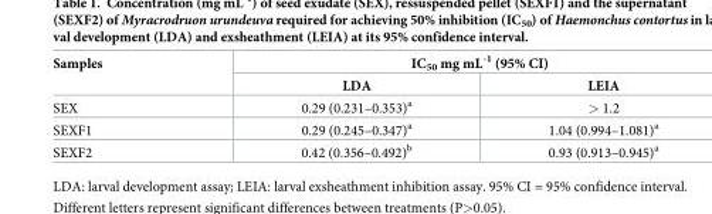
<table><thead><tr><td rowspan="2">Samples</td><td colspan="2">IC<sub>50</sub> mg mL<sup>-1</sup> (95% CI)</td></tr><tr><td>LDA</td><td>LEIA</td></tr></thead><tbody><tr><td>SEX</td><td>0.29 (0.231–0.353)<sup>a</sup></td><td>&gt; 1.2</td></tr><tr><td>SEXF1</td><td>0.29 (0.245–0.347)<sup>a</sup></td><td>1.04 (0.994–1.081)<sup>a</sup></td></tr><tr><td>SEXF2</td><td>0.42 (0.356–0.492)<sup>b</sup></td><td>0.93 (0.913–0.945)<sup>a</sup></td></tr></tbody></table>